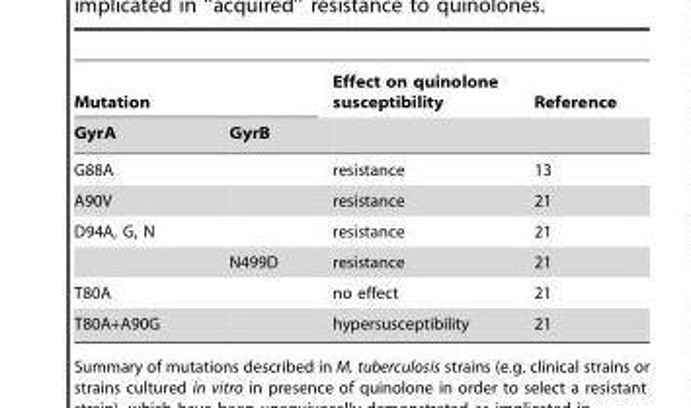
<table><thead><tr><td colspan="2">Mutation</td><td rowspan="2">Effect on quinolone susceptibility</td><td rowspan="2">Reference</td></tr><tr><td>GyrA</td><td>GyrB</td></tr></thead><tbody><tr><td>G88A</td><td></td><td>resistance</td><td>13</td></tr><tr><td>A90V</td><td></td><td>resistance</td><td>21</td></tr><tr><td rowspan="2">D94A, G, N</td><td></td><td>resistance</td><td>21</td></tr><tr><td>N499D</td><td>resistance</td><td>21</td></tr><tr><td>T80A</td><td></td><td>no effect</td><td>21</td></tr><tr><td>T80A+A90G</td><td></td><td>hypersusceptibility</td><td>21</td></tr></tbody></table>